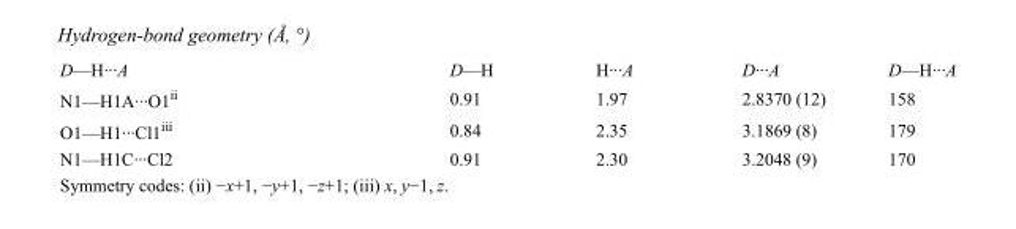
<table><tbody><tr><td>D—H···A</td><td>D—H</td><td>H···A</td><td>D···A</td><td>D—H···A</td></tr><tr><td>N1—H1A···O1<sup>ii</sup></td><td>0.91</td><td>1.97</td><td>2.8370 (12)</td><td>158</td></tr><tr><td>O1—H1···Cl1<sup>iii</sup></td><td>0.84</td><td>2.35</td><td>3.1869 (8)</td><td>179</td></tr><tr><td>N1—H1C···Cl2</td><td>0.91</td><td>2.30</td><td>3.2048 (9)</td><td>170</td></tr></tbody></table>